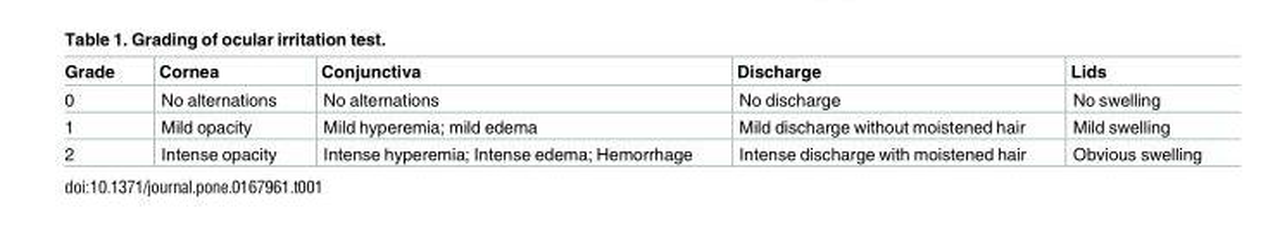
<table><thead><tr><td>Grade</td><td>Cornea</td><td>Conjunctiva</td><td>Discharge</td><td>Lids</td></tr></thead><tbody><tr><td>0</td><td>No alternations</td><td>No alternations</td><td>No discharge</td><td>No swelling</td></tr><tr><td>1</td><td>Mild opacity</td><td>Mild hyperemia; mild edema</td><td>Mild discharge without moistened hair</td><td>Mild swelling</td></tr><tr><td>2</td><td>Intense opacity</td><td>Intense hyperemia; Intense edema; Hemorrhage</td><td>Intense discharge with moistened hair</td><td>Obvious swelling</td></tr></tbody></table>